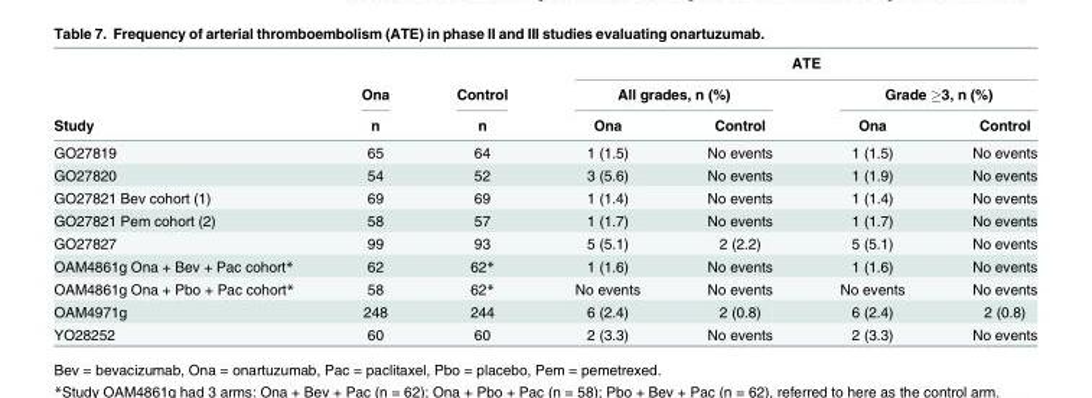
<table><thead><tr><td rowspan="3">Study</td><td rowspan="3">Ona n</td><td rowspan="3">Control n</td><td colspan="4">ATE</td></tr><tr><td colspan="2">All grades, n (%)</td><td colspan="2">Grade ≥3, n (%)</td></tr><tr><td>Ona</td><td>Control</td><td>Ona</td><td>Control</td></tr></thead><tbody><tr><td>GO27819</td><td>65</td><td>64</td><td>1 (1.5)</td><td>No events</td><td>1 (1.5)</td><td>No events</td></tr><tr><td>GO27820</td><td>54</td><td>52</td><td>3 (5.6)</td><td>No events</td><td>1 (1.9)</td><td>No events</td></tr><tr><td>GO27821 Bev cohort (1)</td><td>69</td><td>69</td><td>1 (1.4)</td><td>No events</td><td>1 (1.4)</td><td>No events</td></tr><tr><td>GO27821 Pem cohort (2)</td><td>58</td><td>57</td><td>1 (1.7)</td><td>No events</td><td>1 (1.7)</td><td>No events</td></tr><tr><td>GO27827</td><td>99</td><td>93</td><td>5 (5.1)</td><td>2 (2.2)</td><td>5 (5.1)</td><td>No events</td></tr><tr><td>OAM4861g Ona + Bev + Pac cohort*</td><td>62</td><td>62*</td><td>1 (1.6)</td><td>No events</td><td>1 (1.6)</td><td>No events</td></tr><tr><td>OAM4861g Ona + Pbo + Pac cohort*</td><td>58</td><td>62*</td><td>No events</td><td>No events</td><td>No events</td><td>No events</td></tr><tr><td>OAM4971g</td><td>248</td><td>244</td><td>6 (2.4)</td><td>2 (0.8)</td><td>6 (2.4)</td><td>2 (0.8)</td></tr><tr><td>YO28252</td><td>60</td><td>60</td><td>2 (3.3)</td><td>No events</td><td>2 (3.3)</td><td>No events</td></tr></tbody></table>